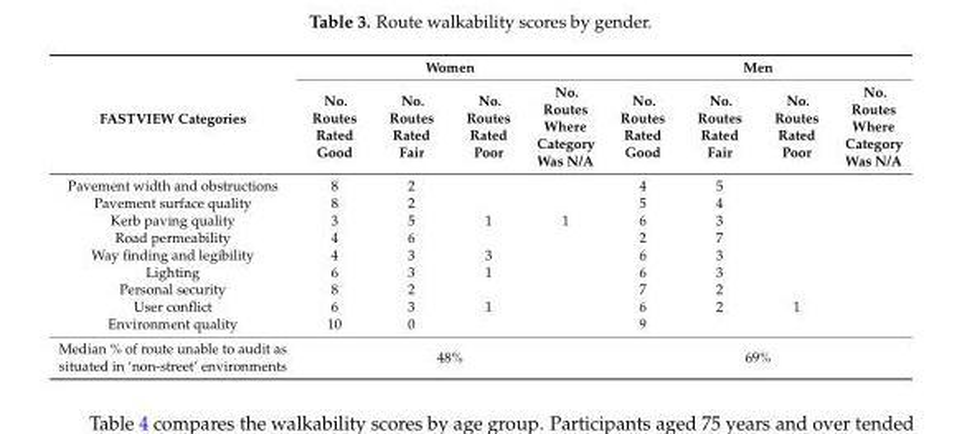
<table><thead><tr><td rowspan="2">FASTVIEW Categories</td><td colspan="4">Women</td><td colspan="4">Men</td></tr><tr><td>No. Routes Rated Good</td><td>No. Routes Rated Fair</td><td>No. Routes Rated Poor</td><td>No. Routes Where Category Was N/A</td><td>No. Routes Rated Good</td><td>No. Routes Rated Fair</td><td>No. Routes Rated Poor</td><td>No. Routes Where Category Was N/A</td></tr></thead><tbody><tr><td>Pavement width and obstructions</td><td>8</td><td>2</td><td></td><td></td><td>4</td><td>5</td><td></td><td></td></tr><tr><td>Pavement surface quality</td><td>8</td><td>2</td><td></td><td></td><td>5</td><td>4</td><td></td><td></td></tr><tr><td>Kerb paving quality</td><td>3</td><td>5</td><td>1</td><td>1</td><td>6</td><td>3</td><td></td><td></td></tr><tr><td>Road permeability</td><td>4</td><td>6</td><td></td><td></td><td>2</td><td>7</td><td></td><td></td></tr><tr><td>Way finding and legibility</td><td>4</td><td>3</td><td>3</td><td></td><td>6</td><td>3</td><td></td><td></td></tr><tr><td>Lighting</td><td>6</td><td>3</td><td>1</td><td></td><td>6</td><td>3</td><td></td><td></td></tr><tr><td>Personal security</td><td>8</td><td>2</td><td></td><td></td><td>7</td><td>2</td><td></td><td></td></tr><tr><td>User conflict</td><td>6</td><td>3</td><td>1</td><td></td><td>6</td><td>2</td><td>1</td><td></td></tr><tr><td>Environment quality</td><td>10</td><td>0</td><td></td><td></td><td>9</td><td></td><td></td><td></td></tr><tr><td>Median % of route unable to audit as situated in ‘non-street’ environments</td><td colspan="4">48%</td><td colspan="4">69%</td></tr></tbody></table>